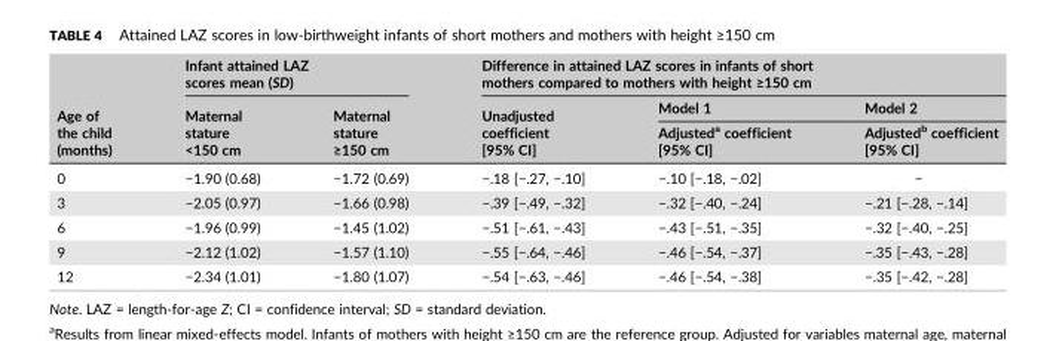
<table><thead><tr><td rowspan="3">Age of the child (months)</td><td colspan="2">Infant attained LAZ scores mean (SD)</td><td colspan="3">Difference in attained LAZ scores in infants of short mothers compared to mothers with height ≥150 cm</td></tr><tr><td rowspan="2">Maternal stature &lt;150 cm</td><td rowspan="2">Maternal stature ≥150 cm</td><td rowspan="2">Unadjusted coefficient [95% CI]</td><td rowspan="2">Model 1 Adjusted<sup>a</sup> coefficient [95% CI]</td><td rowspan="2">Model 2 Adjusted<sup>b</sup> coefficient [95% CI]</td></tr><tr></tr></thead><tbody><tr><td>0</td><td>−1.90 (0.68)</td><td>−1.72 (0.69)</td><td>−.18 [−.27, −.10]</td><td>−.10 [−.18, −.02]</td><td>−</td></tr><tr><td>3</td><td>−2.05 (0.97)</td><td>−1.66 (0.98)</td><td>−.39 [−.49, −.32]</td><td>−.32 [−.40, −.24]</td><td>−.21 [−.28, −.14]</td></tr><tr><td>6</td><td>−1.96 (0.99)</td><td>−1.45 (1.02)</td><td>−.51 [−.61, −.43]</td><td>−.43 [−.51, −.35]</td><td>−.32 [−.40, −.25]</td></tr><tr><td>9</td><td>−2.12 (1.02)</td><td>−1.57 (1.10)</td><td>−.55 [−.64, −.46]</td><td>−.46 [−.54, −.37]</td><td>−.35 [−.43, −.28]</td></tr><tr><td>12</td><td>−2.34 (1.01)</td><td>−1.80 (1.07)</td><td>−.54 [−.63, −.46]</td><td>−.46 [−.54, −.38]</td><td>−.35 [−.42, −.28]</td></tr></tbody></table>